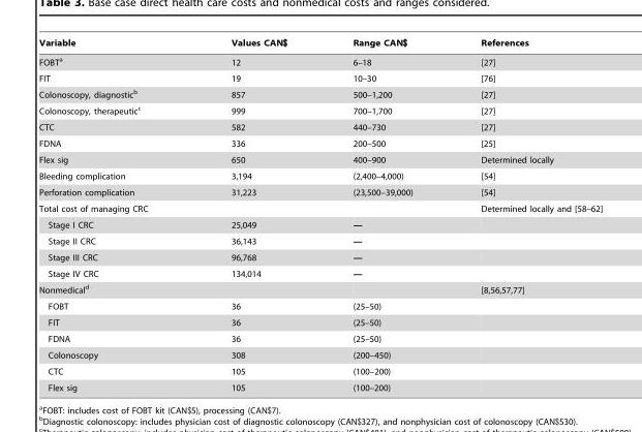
<table><thead><tr><td>Variable</td><td>Values CAN$</td><td>Range CAN$</td><td>References</td></tr></thead><tbody><tr><td>FOBT<sup>a</sup></td><td>12</td><td>6–18</td><td>[27]</td></tr><tr><td>FIT</td><td>19</td><td>10–30</td><td>[76]</td></tr><tr><td>Colonoscopy, diagnostic<sup>b</sup></td><td>857</td><td>500–1,200</td><td>[27]</td></tr><tr><td>Colonoscopy, therapeutic<sup>c</sup></td><td>999</td><td>700–1,700</td><td>[27]</td></tr><tr><td>CTC</td><td>582</td><td>440–730</td><td>[27]</td></tr><tr><td>FDNA</td><td>336</td><td>200–500</td><td>[25]</td></tr><tr><td>Flex sig</td><td>650</td><td>400–900</td><td>Determined locally</td></tr><tr><td>Bleeding complication</td><td>3,194</td><td>(2,400–4,000)</td><td>[54]</td></tr><tr><td>Perforation complication</td><td>31,223</td><td>(23,500–39,000)</td><td>[54]</td></tr><tr><td>Total cost of managing CRC</td><td></td><td></td><td>Determined locally and [58–62]</td></tr><tr><td>Stage I CRC</td><td>25,049</td><td>—</td><td></td></tr><tr><td>Stage II CRC</td><td>36,143</td><td>—</td><td></td></tr><tr><td>Stage III CRC</td><td>96,768</td><td>—</td><td></td></tr><tr><td>Stage IV CRC</td><td>134,014</td><td>—</td><td></td></tr><tr><td>Nonmedical<sup>d</sup></td><td></td><td></td><td>[8,56,57,77]</td></tr><tr><td>FOBT</td><td>36</td><td>(25–50)</td><td></td></tr><tr><td>FIT</td><td>36</td><td>(25–50)</td><td></td></tr><tr><td>FDNA</td><td>36</td><td>(25–50)</td><td></td></tr><tr><td>Colonoscopy</td><td>308</td><td>(200–450)</td><td></td></tr><tr><td>CTC</td><td>105</td><td>(100–200)</td><td></td></tr><tr><td>Flex sig</td><td>105</td><td>(100–200)</td><td></td></tr></tbody></table>